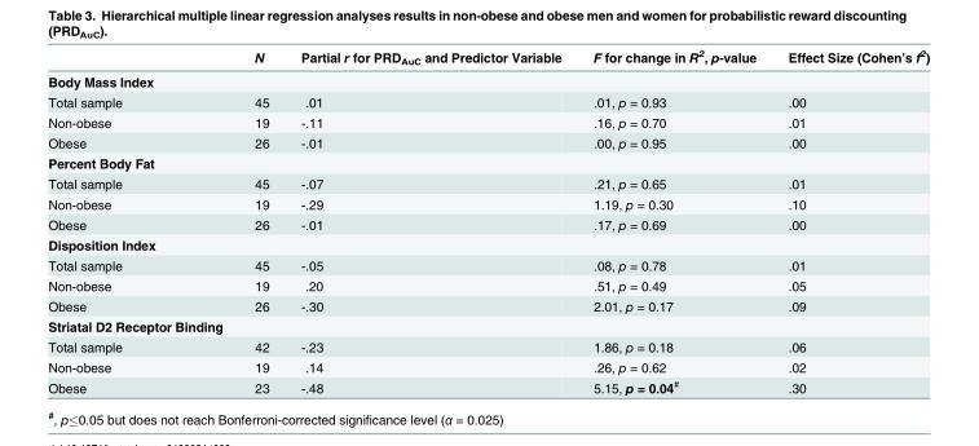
<table><thead><tr><td></td><td>N</td><td>Partial r for PRD<sub>AuC</sub> and Predictor Variable</td><td>F for change in R<sup>2</sup>, p-value</td><td>Effect Size (Cohen’s f<sup>2</sup>)</td></tr></thead><tbody><tr><td colspan="5">Body Mass Index</td></tr><tr><td>Total sample</td><td>45</td><td>.01</td><td>.01, p = 0.93</td><td>.00</td></tr><tr><td>Non-obese</td><td>19</td><td>-.11</td><td>.16, p = 0.70</td><td>.01</td></tr><tr><td>Obese</td><td>26</td><td>-.01</td><td>.00, p = 0.95</td><td>.00</td></tr><tr><td colspan="5">Percent Body Fat</td></tr><tr><td>Total sample</td><td>45</td><td>-.07</td><td>.21, p = 0.65</td><td>.01</td></tr><tr><td>Non-obese</td><td>19</td><td>-.29</td><td>1.19, p = 0.30</td><td>.10</td></tr><tr><td>Obese</td><td>26</td><td>-.01</td><td>.17, p = 0.69</td><td>.00</td></tr><tr><td colspan="5">Disposition Index</td></tr><tr><td>Total sample</td><td>45</td><td>-.05</td><td>.08, p = 0.78</td><td>.01</td></tr><tr><td>Non-obese</td><td>19</td><td>.20</td><td>.51, p = 0.49</td><td>.05</td></tr><tr><td>Obese</td><td>26</td><td>-.30</td><td>2.01, p = 0.17</td><td>.09</td></tr><tr><td colspan="5">Striatal D2 Receptor Binding</td></tr><tr><td>Total sample</td><td>42</td><td>-.23</td><td>1.86, p = 0.18</td><td>.06</td></tr><tr><td>Non-obese</td><td>19</td><td>.14</td><td>.26, p = 0.62</td><td>.02</td></tr><tr><td>Obese</td><td>23</td><td>-.48</td><td>5.15, p = 0.04<sup>#</sup></td><td>.30</td></tr></tbody></table>